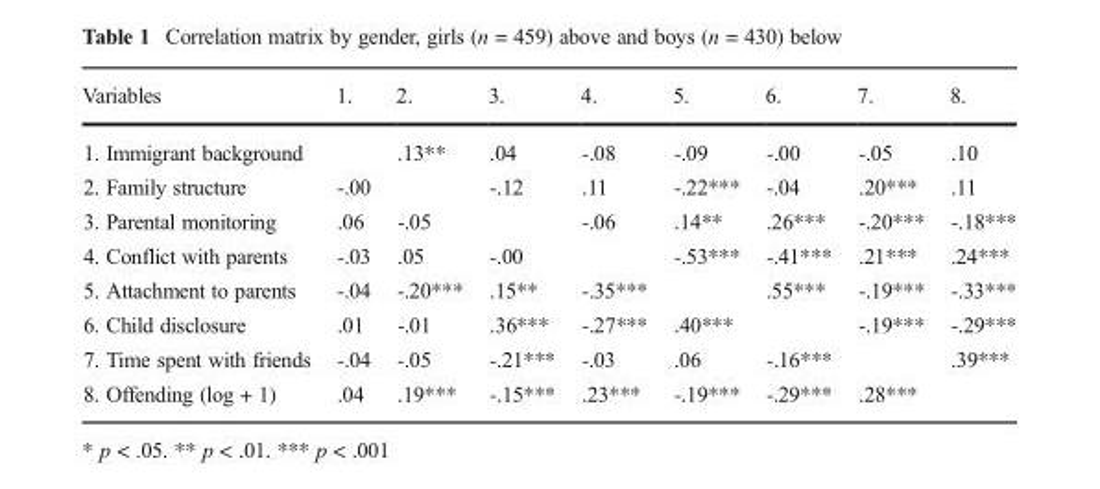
<table><thead><tr><td>Variables</td><td>1.</td><td>2.</td><td>3.</td><td>4.</td><td>5.</td><td>6.</td><td>7.</td><td>8.</td></tr></thead><tbody><tr><td>1. Immigrant background</td><td></td><td>.13**</td><td>.04</td><td>-.08</td><td>-.09</td><td>-.00</td><td>-.05</td><td>.10</td></tr><tr><td>2. Family structure</td><td>-.00</td><td></td><td>-.12</td><td>.11</td><td>-.22***</td><td>-.04</td><td>.20***</td><td>.11</td></tr><tr><td>3. Parental monitoring</td><td>.06</td><td>-.05</td><td></td><td>-.06</td><td>.14**</td><td>.26***</td><td>-.20***</td><td>-.18***</td></tr><tr><td>4. Conflict with parents</td><td>-.03</td><td>.05</td><td>-.00</td><td></td><td>-.53***</td><td>-.41***</td><td>.21***</td><td>.24***</td></tr><tr><td>5. Attachment to parents</td><td>-.04</td><td>-.20***</td><td>.15**</td><td>-.35***</td><td></td><td>.55***</td><td>-.19***</td><td>-.33***</td></tr><tr><td>6. Child disclosure</td><td>.01</td><td>-.01</td><td>.36***</td><td>-.27***</td><td>.40***</td><td></td><td>-.19***</td><td>-.29***</td></tr><tr><td>7. Time spent with friends</td><td>-.04</td><td>-.05</td><td>-.21***</td><td>-.03</td><td>.06</td><td>-.16***</td><td></td><td>.39***</td></tr><tr><td>8. Offending (log + 1)</td><td>.04</td><td>.19***</td><td>-.15***</td><td>.23***</td><td>-.19***</td><td>-.29***</td><td>.28***</td><td></td></tr></tbody></table>